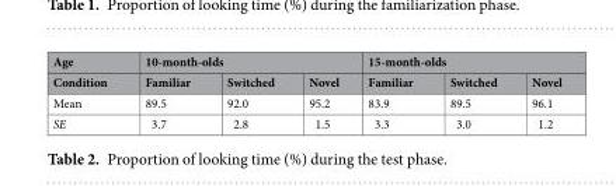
<table><thead><tr><td rowspan="2">Age Condition</td><td colspan="3">10-month-olds</td><td colspan="3">15-month-olds</td></tr><tr><td>Familiar</td><td>Switched</td><td>Novel</td><td>Familiar</td><td>Switched</td><td>Novel</td></tr></thead><tbody><tr><td>Mean</td><td>89.5</td><td>92.0</td><td>95.2</td><td>83.9</td><td>89.5</td><td>96.1</td></tr><tr><td>SE</td><td>3.7</td><td>2.8</td><td>1.5</td><td>3.3</td><td>3.0</td><td>1.2</td></tr></tbody></table>